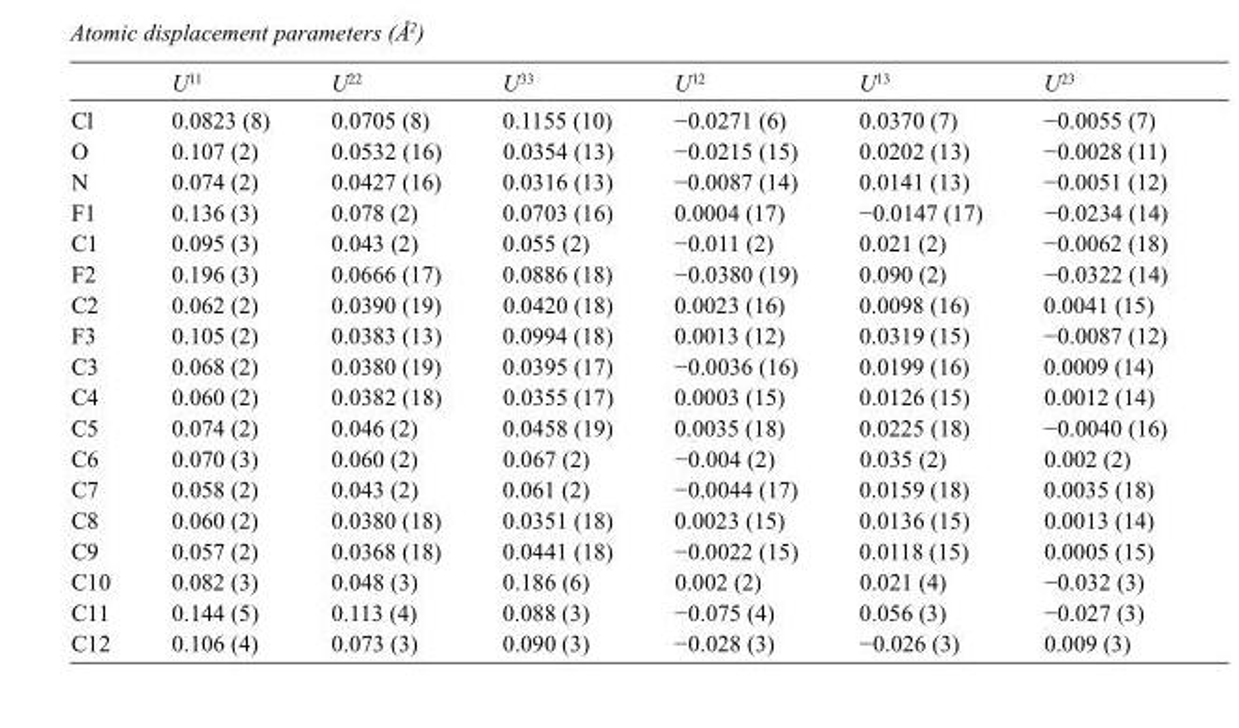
<table><thead><tr><td></td><td>U<sup>11</sup></td><td>U<sup>22</sup></td><td>U<sup>33</sup></td><td>U<sup>12</sup></td><td>U<sup>13</sup></td><td>U<sup>23</sup></td></tr></thead><tbody><tr><td>Cl</td><td>0.0823 (8)</td><td>0.0705 (8)</td><td>0.1155 (10)</td><td>−0.0271 (6)</td><td>0.0370 (7)</td><td>−0.0055 (7)</td></tr><tr><td>O</td><td>0.107 (2)</td><td>0.0532 (16)</td><td>0.0354 (13)</td><td>−0.0215 (15)</td><td>0.0202 (13)</td><td>−0.0028 (11)</td></tr><tr><td>N</td><td>0.074 (2)</td><td>0.0427 (16)</td><td>0.0316 (13)</td><td>−0.0087 (14)</td><td>0.0141 (13)</td><td>−0.0051 (12)</td></tr><tr><td>F1</td><td>0.136 (3)</td><td>0.078 (2)</td><td>0.0703 (16)</td><td>0.0004 (17)</td><td>−0.0147 (17)</td><td>−0.0234 (14)</td></tr><tr><td>C1</td><td>0.095 (3)</td><td>0.043 (2)</td><td>0.055 (2)</td><td>−0.011 (2)</td><td>0.021 (2)</td><td>−0.0062 (18)</td></tr><tr><td>F2</td><td>0.196 (3)</td><td>0.0666 (17)</td><td>0.0886 (18)</td><td>−0.0380 (19)</td><td>0.090 (2)</td><td>−0.0322 (14)</td></tr><tr><td>C2</td><td>0.062 (2)</td><td>0.0390 (19)</td><td>0.0420 (18)</td><td>0.0023 (16)</td><td>0.0098 (16)</td><td>0.0041 (15)</td></tr><tr><td>F3</td><td>0.105 (2)</td><td>0.0383 (13)</td><td>0.0994 (18)</td><td>0.0013 (12)</td><td>0.0319 (15)</td><td>−0.0087 (12)</td></tr><tr><td>C3</td><td>0.068 (2)</td><td>0.0380 (19)</td><td>0.0395 (17)</td><td>−0.0036 (16)</td><td>0.0199 (16)</td><td>0.0009 (14)</td></tr><tr><td>C4</td><td>0.060 (2)</td><td>0.0382 (18)</td><td>0.0355 (17)</td><td>0.0003 (15)</td><td>0.0126 (15)</td><td>0.0012 (14)</td></tr><tr><td>C5</td><td>0.074 (2)</td><td>0.046 (2)</td><td>0.0458 (19)</td><td>0.0035 (18)</td><td>0.0225 (18)</td><td>−0.0040 (16)</td></tr><tr><td>C6</td><td>0.070 (3)</td><td>0.060 (2)</td><td>0.067 (2)</td><td>−0.004 (2)</td><td>0.035 (2)</td><td>0.002 (2)</td></tr><tr><td>C7</td><td>0.058 (2)</td><td>0.043 (2)</td><td>0.061 (2)</td><td>−0.0044 (17)</td><td>0.0159 (18)</td><td>0.0035 (18)</td></tr><tr><td>C8</td><td>0.060 (2)</td><td>0.0380 (18)</td><td>0.0351 (18)</td><td>0.0023 (15)</td><td>0.0136 (15)</td><td>0.0013 (14)</td></tr><tr><td>C9</td><td>0.057 (2)</td><td>0.0368 (18)</td><td>0.0441 (18)</td><td>−0.0022 (15)</td><td>0.0118 (15)</td><td>0.0005 (15)</td></tr><tr><td>C10</td><td>0.082 (3)</td><td>0.048 (3)</td><td>0.186 (6)</td><td>0.002 (2)</td><td>0.021 (4)</td><td>−0.032 (3)</td></tr><tr><td>C11</td><td>0.144 (5)</td><td>0.113 (4)</td><td>0.088 (3)</td><td>−0.075 (4)</td><td>0.056 (3)</td><td>−0.027 (3)</td></tr><tr><td>C12</td><td>0.106 (4)</td><td>0.073 (3)</td><td>0.090 (3)</td><td>−0.028 (3)</td><td>−0.026 (3)</td><td>0.009 (3)</td></tr></tbody></table>